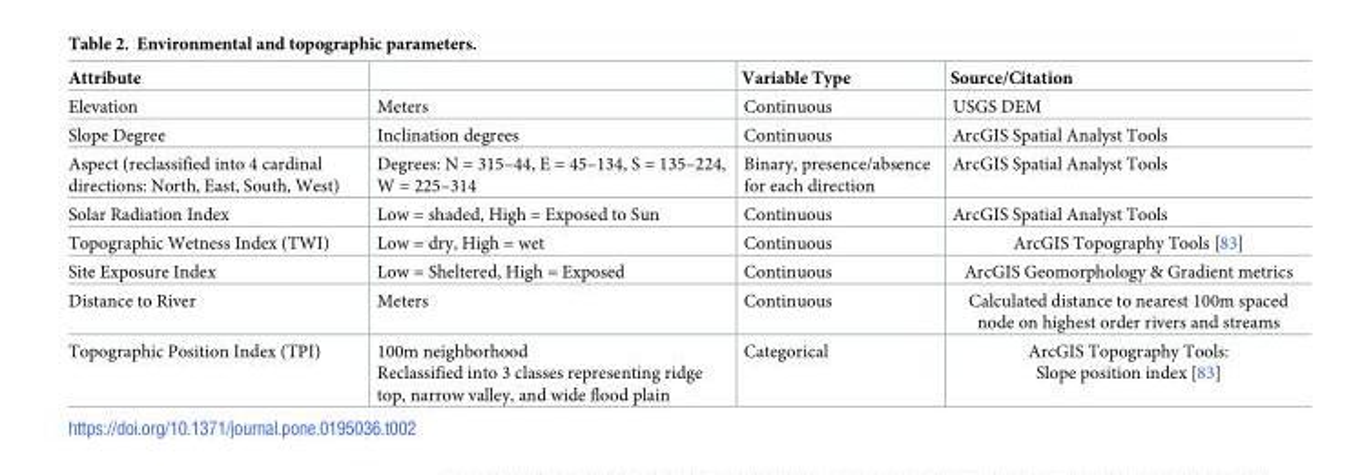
<table><thead><tr><td>Attribute</td><td></td><td>Variable Type</td><td>Source/Citation</td></tr></thead><tbody><tr><td>Elevation</td><td>Meters</td><td>Continuous</td><td>USGS DEM</td></tr><tr><td>Slope Degree</td><td>Inclination degrees</td><td>Continuous</td><td>ArcGIS Spatial Analyst Tools</td></tr><tr><td>Aspect (reclassified into 4 cardinal directions: North, East, South, West)</td><td>Degrees: N = 315–44, E = 45–134, S = 135–224, W = 225–314</td><td>Binary, presence/absence for each direction</td><td>ArcGIS Spatial Analyst Tools</td></tr><tr><td>Solar Radiation Index</td><td>Low = shaded, High = Exposed to Sun</td><td>Continuous</td><td>ArcGIS Spatial Analyst Tools</td></tr><tr><td>Topographic Wetness Index (TWI)</td><td>Low = dry, High = wet</td><td>Continuous</td><td>ArcGIS Topography Tools [83]</td></tr><tr><td>Site Exposure Index</td><td>Low = Sheltered, High = Exposed</td><td>Continuous</td><td>ArcGIS Geomorphology &amp; Gradient metrics</td></tr><tr><td>Distance to River</td><td>Meters</td><td>Continuous</td><td>Calculated distance to nearest 100m spaced node on highest order rivers and streams</td></tr><tr><td>Topographic Position Index (TPI)</td><td>100m neighborhood Reclassified into 3 classes representing ridge top, narrow valley, and wide flood plain</td><td>Categorical</td><td>ArcGIS Topography Tools: Slope position index [83]</td></tr></tbody></table>